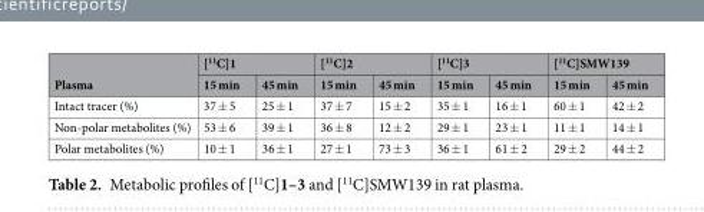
<table><thead><tr><td rowspan="2">Plasma</td><td colspan="2">[<sup>11</sup>C]1</td><td colspan="2">[<sup>11</sup>C]2</td><td colspan="2">[<sup>11</sup>C]3</td><td colspan="2">[<sup>11</sup>C]SMW139</td></tr><tr><td>15 min</td><td>45 min</td><td>15 min</td><td>45 min</td><td>15 min</td><td>45 min</td><td>15 min</td><td>45 min</td></tr></thead><tbody><tr><td>Intact tracer (%)</td><td>37 ± 5</td><td>25 ± 1</td><td>37 ± 7</td><td>15 ± 2</td><td>35 ± 1</td><td>16 ± 1</td><td>60 ± 1</td><td>42 ± 2</td></tr><tr><td>Non-polar metabolites (%)</td><td>53 ± 6</td><td>39 ± 1</td><td>36 ± 8</td><td>12 ± 2</td><td>29 ± 1</td><td>23 ± 1</td><td>11 ± 1</td><td>14 ± 1</td></tr><tr><td>Polar metabolites (%)</td><td>10 ± 1</td><td>36 ± 1</td><td>27 ± 1</td><td>73 ± 3</td><td>36 ± 1</td><td>61 ± 2</td><td>29 ± 2</td><td>44 ± 2</td></tr></tbody></table>